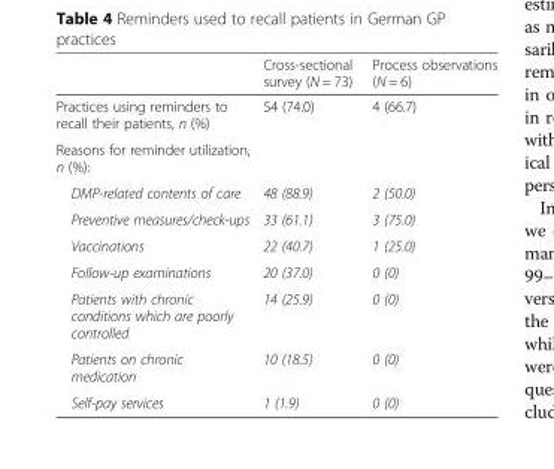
<table><thead><tr><td></td><td>Cross-sectional survey (N = 73)</td><td>Process observations (N = 6)</td></tr></thead><tbody><tr><td>Practices using reminders to recall their patients, n (%)</td><td>54 (74.0)</td><td>4 (66.7)</td></tr><tr><td colspan="3">Reasons for reminder utilization, n (%):</td></tr><tr><td>DMP-related contents of care</td><td>48 (88.9)</td><td>2 (50.0)</td></tr><tr><td>Preventive measures/check-ups</td><td>33 (61.1)</td><td>3 (75.0)</td></tr><tr><td>Vaccinations</td><td>22 (40.7)</td><td>1 (25.0)</td></tr><tr><td>Follow-up examinations</td><td>20 (37.0)</td><td>0 (0)</td></tr><tr><td>Patients with chronic conditions which are poorly controlled</td><td>14 (25.9)</td><td>0 (0)</td></tr><tr><td>Patients on chronic medication</td><td>10 (18.5)</td><td>0 (0)</td></tr><tr><td>Self-pay services</td><td>1 (1.9)</td><td>0 (0)</td></tr></tbody></table>